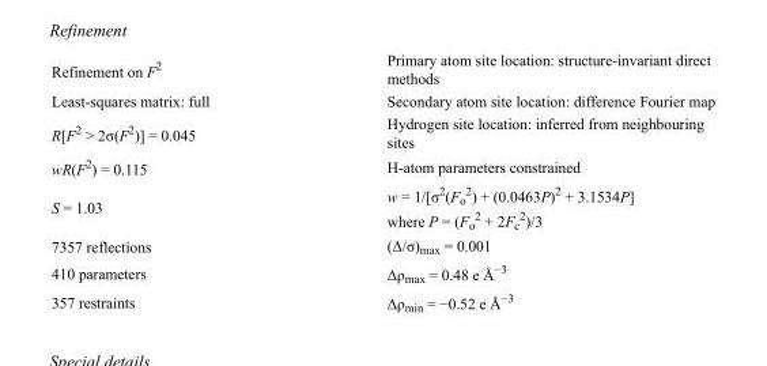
<table><tbody><tr><td>Refinement on F<sup>2</sup></td><td>Primary atom site location: structure-invariant direct methods</td></tr><tr><td>Least-squares matrix: full</td><td>Secondary atom site location: difference Fourier map</td></tr><tr><td>R[F<sup>2</sup> &gt; 2σ(F<sup>2</sup>)] = 0.045</td><td>Hydrogen site location: inferred from neighbouring sites</td></tr><tr><td>wR(F<sup>2</sup>) = 0.115</td><td>H-atom parameters constrained</td></tr><tr><td>S = 1.03</td><td>w = 1/[σ<sup>2</sup>(F<sub>o</sub> <sup>2</sup>) + (0.0463P)<sup>2</sup> + 3.1534P] where P = (F<sub>o</sub> <sup>2</sup> + 2F<sub>c</sub> <sup>2</sup>)/3</td></tr><tr><td>7357 reflections</td><td>(Δ/σ)<sub>max</sub> = 0.001</td></tr><tr><td>410 parameters</td><td>Δρ<sub>max</sub> = 0.48 e Å<sup>−3</sup></td></tr><tr><td>357 restraints</td><td>Δρ<sub>min</sub> = −0.52 e Å<sup>−3</sup></td></tr></tbody></table>